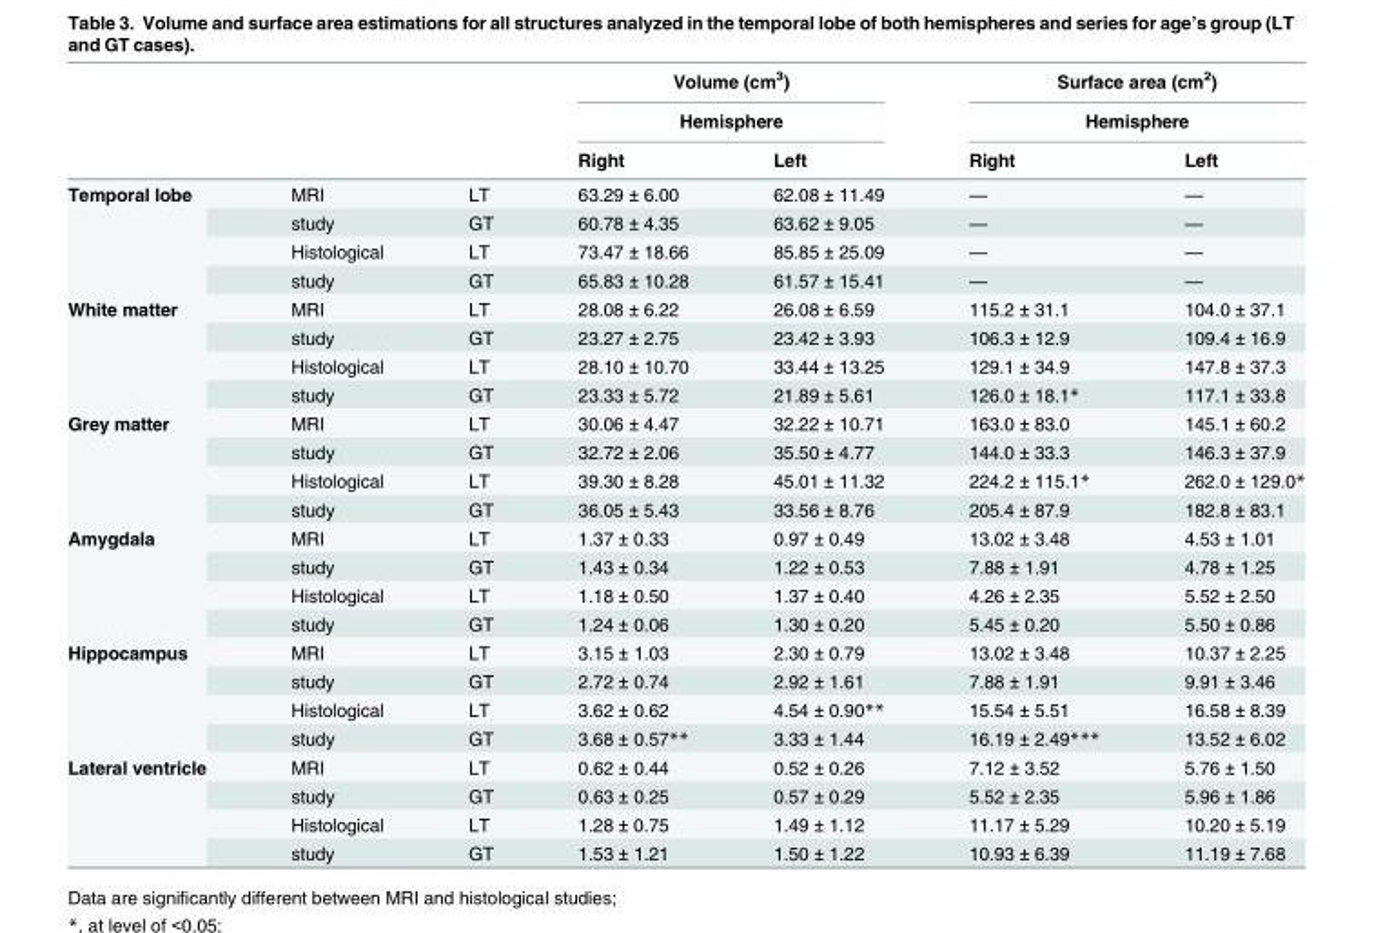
<table><thead><tr><td rowspan="3"></td><td rowspan="3"></td><td rowspan="3"></td><td rowspan="2" colspan="2">Volume (cm<sup>3</sup>) Hemisphere</td><td rowspan="2" colspan="2">Surface area (cm<sup>2</sup>) Hemisphere</td></tr><tr></tr><tr><td>Right</td><td>Left</td><td>Right</td><td>Left</td></tr></thead><tbody><tr><td rowspan="4">Temporal lobe</td><td>MRI</td><td>LT</td><td>63.29 ± 6.00</td><td>62.08 ± 11.49</td><td>—</td><td>—</td></tr><tr><td>study</td><td>GT</td><td>60.78 ± 4.35</td><td>63.62 ± 9.05</td><td>—</td><td>—</td></tr><tr><td>Histological</td><td>LT</td><td>73.47 ± 18.66</td><td>85.85 ± 25.09</td><td>—</td><td>—</td></tr><tr><td>study</td><td>GT</td><td>65.83 ± 10.28</td><td>61.57 ± 15.41</td><td>—</td><td>—</td></tr><tr><td rowspan="4">White matter</td><td>MRI</td><td>LT</td><td>28.08 ± 6.22</td><td>26.08 ± 6.59</td><td>115.2 ± 31.1</td><td>104.0 ± 37.1</td></tr><tr><td>study</td><td>GT</td><td>23.27 ± 2.75</td><td>23.42 ± 3.93</td><td>106.3 ± 12.9</td><td>109.4 ± 16.9</td></tr><tr><td>Histological</td><td>LT</td><td>28.10 ± 10.70</td><td>33.44 ± 13.25</td><td>129.1 ± 34.9</td><td>147.8 ± 37.3</td></tr><tr><td>study</td><td>GT</td><td>23.33 ± 5.72</td><td>21.89 ± 5.61</td><td>126.0 ± 18.1*</td><td>117.1 ± 33.8</td></tr><tr><td rowspan="4">Grey matter</td><td>MRI</td><td>LT</td><td>30.06 ± 4.47</td><td>32.22 ± 10.71</td><td>163.0 ± 83.0</td><td>145.1 ± 60.2</td></tr><tr><td>study</td><td>GT</td><td>32.72 ± 2.06</td><td>35.50 ± 4.77</td><td>144.0 ± 33.3</td><td>146.3 ± 37.9</td></tr><tr><td>Histological</td><td>LT</td><td>39.30 ± 8.28</td><td>45.01 ± 11.32</td><td>224.2 ± 115.1*</td><td>262.0 ± 129.0*</td></tr><tr><td>study</td><td>GT</td><td>36.05 ± 5.43</td><td>33.56 ± 8.76</td><td>205.4 ± 87.9</td><td>182.8 ± 83.1</td></tr><tr><td rowspan="4">Amygdala</td><td>MRI</td><td>LT</td><td>1.37 ± 0.33</td><td>0.97 ± 0.49</td><td>13.02 ± 3.48</td><td>4.53 ± 1.01</td></tr><tr><td>study</td><td>GT</td><td>1.43 ± 0.34</td><td>1.22 ± 0.53</td><td>7.88 ± 1.91</td><td>4.78 ± 1.25</td></tr><tr><td>Histological</td><td>LT</td><td>1.18 ± 0.50</td><td>1.37 ± 0.40</td><td>4.26 ± 2.35</td><td>5.52 ± 2.50</td></tr><tr><td>study</td><td>GT</td><td>1.24 ± 0.06</td><td>1.30 ± 0.20</td><td>5.45 ± 0.20</td><td>5.50 ± 0.86</td></tr><tr><td rowspan="4">Hippocampus</td><td>MRI</td><td>LT</td><td>3.15 ± 1.03</td><td>2.30 ± 0.79</td><td>13.02 ± 3.48</td><td>10.37 ± 2.25</td></tr><tr><td>study</td><td>GT</td><td>2.72 ± 0.74</td><td>2.92 ± 1.61</td><td>7.88 ± 1.91</td><td>9.91 ± 3.46</td></tr><tr><td>Histological</td><td>LT</td><td>3.62 ± 0.62</td><td>4.54 ± 0.90**</td><td>15.54 ± 5.51</td><td>16.58 ± 8.39</td></tr><tr><td>study</td><td>GT</td><td>3.68 ± 0.57**</td><td>3.33 ± 1.44</td><td>16.19 ± 2.49***</td><td>13.52 ± 6.02</td></tr><tr><td rowspan="4">Lateral ventricle</td><td>MRI</td><td>LT</td><td>0.62 ± 0.44</td><td>0.52 ± 0.26</td><td>7.12 ± 3.52</td><td>5.76 ± 1.50</td></tr><tr><td>study</td><td>GT</td><td>0.63 ± 0.25</td><td>0.57 ± 0.29</td><td>5.52 ± 2.35</td><td>5.96 ± 1.86</td></tr><tr><td>Histological</td><td>LT</td><td>1.28 ± 0.75</td><td>1.49 ± 1.12</td><td>11.17 ± 5.29</td><td>10.20 ± 5.19</td></tr><tr><td>study</td><td>GT</td><td>1.53 ± 1.21</td><td>1.50 ± 1.22</td><td>10.93 ± 6.39</td><td>11.19 ± 7.68</td></tr></tbody></table>